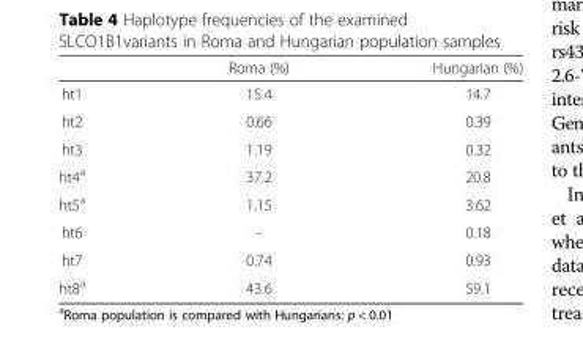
<table><thead><tr><td></td><td>Roma (%)</td><td>Hungarian (%)</td></tr></thead><tbody><tr><td>ht1</td><td>15.4</td><td>14.7</td></tr><tr><td>ht2</td><td>0.66</td><td>0.39</td></tr><tr><td>ht3</td><td>1.19</td><td>0.32</td></tr><tr><td>ht4<sup>a</sup></td><td>37.2</td><td>20.8</td></tr><tr><td>ht5<sup>a</sup></td><td>1.15</td><td>3.62</td></tr><tr><td>ht6</td><td>-</td><td>0.18</td></tr><tr><td>ht7</td><td>0.74</td><td>0.93</td></tr><tr><td>ht8<sup>a</sup></td><td>43.6</td><td>59.1</td></tr></tbody></table>